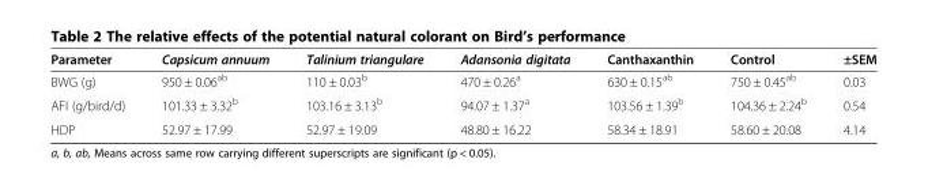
<table><thead><tr><td>Parameter</td><td>Capsicum annuum</td><td>Talinium triangulare</td><td>Adansonia digitata</td><td>Canthaxanthin</td><td>Control</td><td>±SEM</td></tr></thead><tbody><tr><td>BWG (g)</td><td>950 ± 0.06<sup>ab</sup></td><td>110 ± 0.03<sup>b</sup></td><td>470 ± 0.26<sup>a</sup></td><td>630 ± 0.15<sup>ab</sup></td><td>750 ± 0.45<sup>ab</sup></td><td>0.03</td></tr><tr><td>AFI (g/bird/d)</td><td>101.33 ± 3.32<sup>b</sup></td><td>103.16 ± 3.13<sup>b</sup></td><td>94.07 ± 1.37<sup>a</sup></td><td>103.56 ± 1.39<sup>b</sup></td><td>104.36 ± 2.24<sup>b</sup></td><td>0.54</td></tr><tr><td>HDP</td><td>52.97 ± 17.99</td><td>52.97 ± 19.09</td><td>48.80 ± 16.22</td><td>58.34 ± 18.91</td><td>58.60 ± 20.08</td><td>4.14</td></tr></tbody></table>